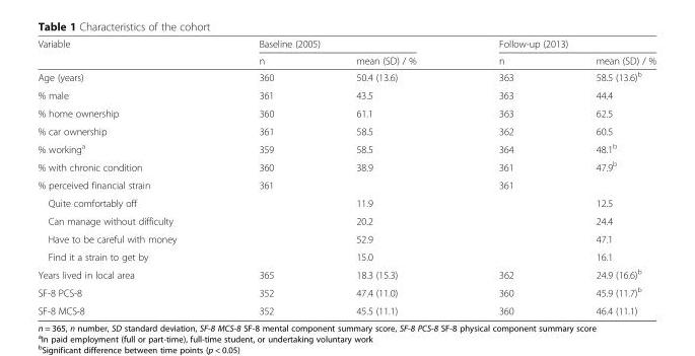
<table><thead><tr><td rowspan="2">Variable</td><td colspan="2">Baseline (2005)</td><td colspan="2">Follow-up (2013)</td></tr><tr><td>n</td><td>mean (SD) / %</td><td>n</td><td>mean (SD) / %</td></tr></thead><tbody><tr><td>Age (years)</td><td>360</td><td>50.4 (13.6)</td><td>363</td><td>58.5 (13.6)<sup>b</sup></td></tr><tr><td>% male</td><td>361</td><td>43.5</td><td>363</td><td>44.4</td></tr><tr><td>% home ownership</td><td>360</td><td>61.1</td><td>363</td><td>62.5</td></tr><tr><td>% car ownership</td><td>361</td><td>58.5</td><td>362</td><td>60.5</td></tr><tr><td>% working<sup>a</sup></td><td>359</td><td>58.5</td><td>364</td><td>48.1<sup>b</sup></td></tr><tr><td>% with chronic condition</td><td>360</td><td>38.9</td><td>361</td><td>47.9<sup>b</sup></td></tr><tr><td>% perceived financial strain</td><td>361</td><td></td><td>361</td><td></td></tr><tr><td>Quite comfortably off</td><td></td><td>11.9</td><td></td><td>12.5</td></tr><tr><td>Can manage without difficulty</td><td></td><td>20.2</td><td></td><td>24.4</td></tr><tr><td>Have to be careful with money</td><td></td><td>52.9</td><td></td><td>47.1</td></tr><tr><td>Find it a strain to get by</td><td></td><td>15.0</td><td></td><td>16.1</td></tr><tr><td>Years lived in local area</td><td>365</td><td>18.3 (15.3)</td><td>362</td><td>24.9 (16.6)<sup>b</sup></td></tr><tr><td>SF-8 PCS-8</td><td>352</td><td>47.4 (11.0)</td><td>360</td><td>45.9 (11.7)<sup>b</sup></td></tr><tr><td>SF-8 MCS-8</td><td>352</td><td>45.5 (11.1)</td><td>360</td><td>46.4 (11.1)</td></tr></tbody></table>